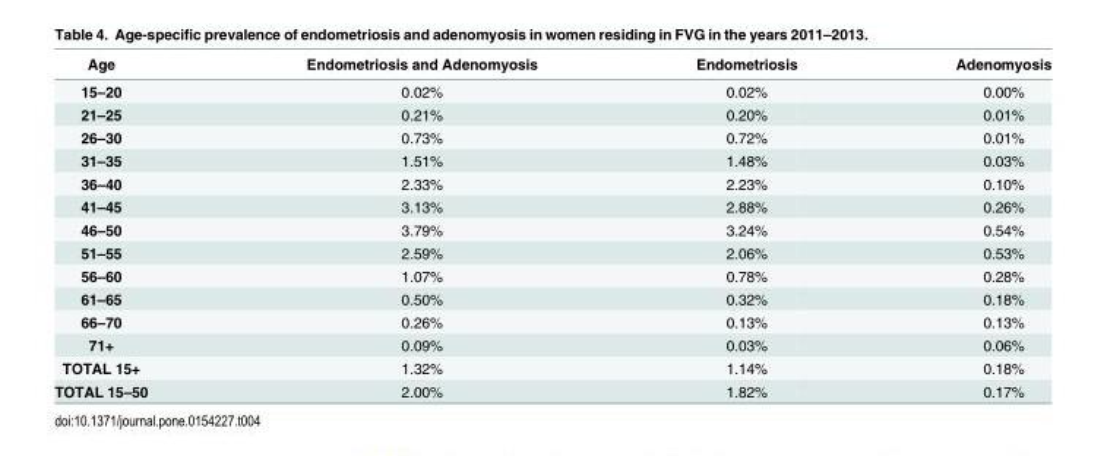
<table><thead><tr><td>Age</td><td>Endometriosis and Adenomyosis</td><td>Endometriosis</td><td>Adenomyosis</td></tr></thead><tbody><tr><td>15–20</td><td>0.02%</td><td>0.02%</td><td>0.00%</td></tr><tr><td>21–25</td><td>0.21%</td><td>0.20%</td><td>0.01%</td></tr><tr><td>26–30</td><td>0.73%</td><td>0.72%</td><td>0.01%</td></tr><tr><td>31–35</td><td>1.51%</td><td>1.48%</td><td>0.03%</td></tr><tr><td>36–40</td><td>2.33%</td><td>2.23%</td><td>0.10%</td></tr><tr><td>41–45</td><td>3.13%</td><td>2.88%</td><td>0.26%</td></tr><tr><td>46–50</td><td>3.79%</td><td>3.24%</td><td>0.54%</td></tr><tr><td>51–55</td><td>2.59%</td><td>2.06%</td><td>0.53%</td></tr><tr><td>56–60</td><td>1.07%</td><td>0.78%</td><td>0.28%</td></tr><tr><td>61–65</td><td>0.50%</td><td>0.32%</td><td>0.18%</td></tr><tr><td>66–70</td><td>0.26%</td><td>0.13%</td><td>0.13%</td></tr><tr><td>71+</td><td>0.09%</td><td>0.03%</td><td>0.06%</td></tr><tr><td>TOTAL 15+</td><td>1.32%</td><td>1.14%</td><td>0.18%</td></tr><tr><td>TOTAL 15–50</td><td>2.00%</td><td>1.82%</td><td>0.17%</td></tr></tbody></table>